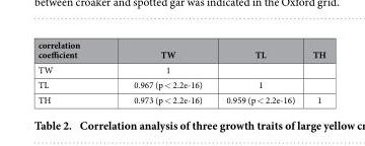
<table><thead><tr><td>correlation coefficient</td><td>TW</td><td>TL</td><td>TH</td></tr></thead><tbody><tr><td>TW</td><td>1</td><td></td><td></td></tr><tr><td>TL</td><td>0.967 (p &lt; 2.2e-16)</td><td>1</td><td></td></tr><tr><td>TH</td><td>0.973 (p &lt; 2.2e-16)</td><td>0.959 (p &lt; 2.2e-16)</td><td>1</td></tr></tbody></table>